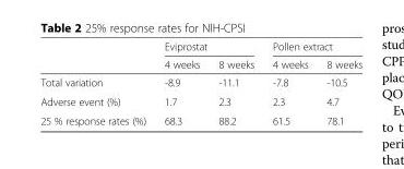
<table><thead><tr><td rowspan="2"></td><td colspan="2">Eviprostat</td><td colspan="2">Pollen extract</td></tr><tr><td>4 weeks</td><td>8 weeks</td><td>4 weeks</td><td>8 weeks</td></tr></thead><tbody><tr><td>Total variation</td><td>-8.9</td><td>-11.1</td><td>-7.8</td><td>-10.5</td></tr><tr><td>Adverse event (%)</td><td>1.7</td><td>2.3</td><td>2.3</td><td>4.7</td></tr><tr><td>25 % response rates (%)</td><td>68.3</td><td>88.2</td><td>61.5</td><td>78.1</td></tr></tbody></table>